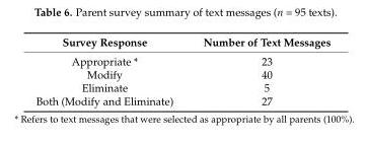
<table><thead><tr><td>Survey Response</td><td>Number of Text Messages</td></tr></thead><tbody><tr><td>Appropriate *</td><td>23</td></tr><tr><td>Modify</td><td>40</td></tr><tr><td>Eliminate</td><td>5</td></tr><tr><td>Both (Modify and Eliminate)</td><td>27</td></tr></tbody></table>